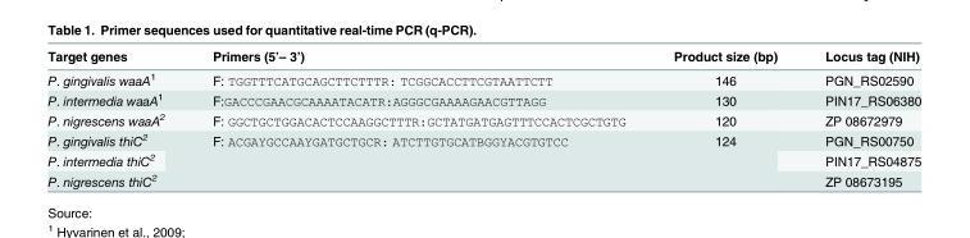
<table><thead><tr><td>Target genes</td><td>Primers (5’– 3’)</td><td>Product size (bp)</td><td>Locus tag (NIH)</td></tr></thead><tbody><tr><td>P. gingivalis waaA<sup>1</sup></td><td>F: TGGTTTCATGCAGCTTCTTTR: TCGGCACCTTCGTAATTCTT</td><td>146</td><td>PGN_RS02590</td></tr><tr><td>P. intermedia waaA<sup>1</sup></td><td>F:GACCCGAACGCAAAATACATR:AGGGCGAAAAGAACGTTAGG</td><td>130</td><td>PIN17_RS06380</td></tr><tr><td>P. nigrescens waaA<sup>2</sup></td><td>F: GGCTGCTGGACACTCCAAGGCTTTR:GCTATGATGAGTTTCCACTCGCTGTG</td><td>120</td><td>ZP 08672979</td></tr><tr><td>P. gingivalis thiC<sup>2</sup></td><td rowspan="3">F: ACGAYGCCAAYGATGCTGCR: ATCTTGTGCATBGGYACGTGTCC</td><td rowspan="3">124</td><td>PGN_RS00750</td></tr><tr><td>P. intermedia thiC<sup>2</sup></td><td>PIN17_RS04875</td></tr><tr><td>P. nigrescens thiC<sup>2</sup></td><td>ZP 08673195</td></tr></tbody></table>